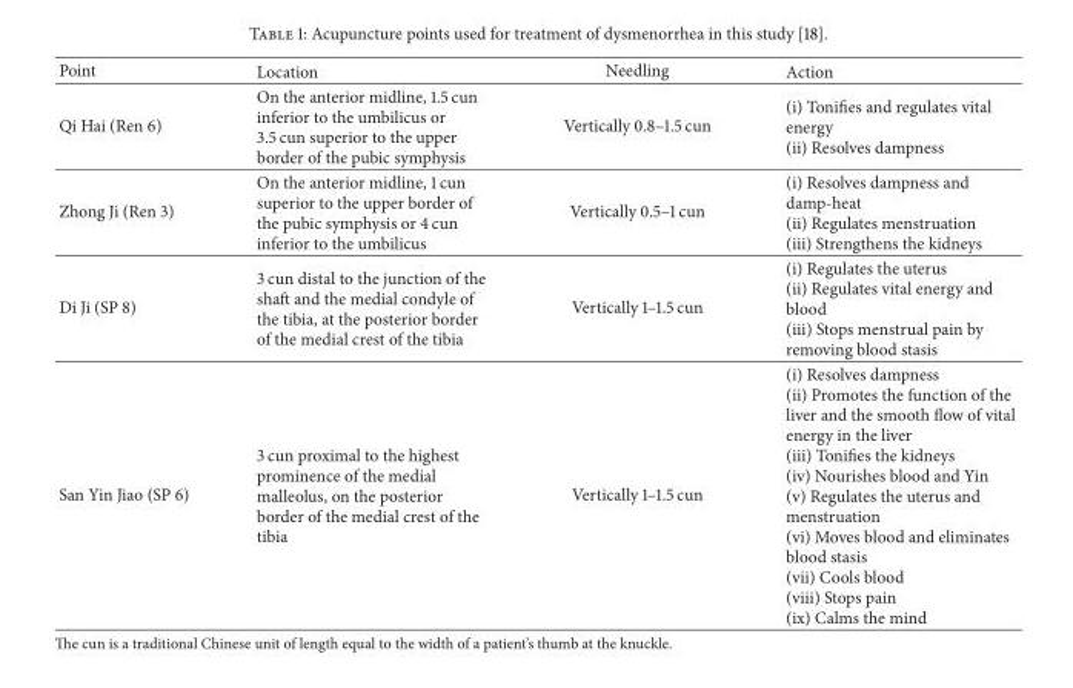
<table><thead><tr><td>Point</td><td>Location</td><td>Needling</td><td>Action</td></tr></thead><tbody><tr><td>Qi Hai (Ren 6)</td><td>On the anterior midline, 1.5 cun inferior to the umbilicus or 3.5 cun superior to the upper border of the pubic symphysis</td><td>Vertically 0.8–1.5 cun</td><td>(i) Tonifies and regulates vital energy (ii) Resolves dampness</td></tr><tr><td>Zhong Ji (Ren 3)</td><td>On the anterior midline, 1 cun superior to the upper border of the pubic symphysis or 4 cun inferior to the umbilicus</td><td>Vertically 0.5–1 cun</td><td>(i) Resolves dampness and damp-heat (ii) Regulates menstruation (iii) Strengthens the kidneys</td></tr><tr><td>Di Ji (SP 8)</td><td>3 cun distal to the junction of the shaft and the medial condyle of the tibia, at the posterior border of the medial crest of the tibia</td><td>Vertically 1–1.5 cun</td><td>(i) Regulates the uterus (ii) Regulates vital energy and blood (iii) Stops menstrual pain by removing blood stasis</td></tr><tr><td>San Yin Jiao (SP 6)</td><td>3 cun proximal to the highest prominence of the medial malleolus, on the posterior border of the medial crest of the tibia</td><td>Vertically 1–1.5 cun</td><td>(i) Resolves dampness (ii) Promotes the function of the liver and the smooth flow of vital energy in the liver (iii) Tonifies the kidneys (iv) Nourishes blood and Yin (v) Regulates the uterus and menstruation (vi) Moves blood and eliminates blood stasis (vii) Cools blood (viii) Stops pain (ix) Calms the mind</td></tr></tbody></table>